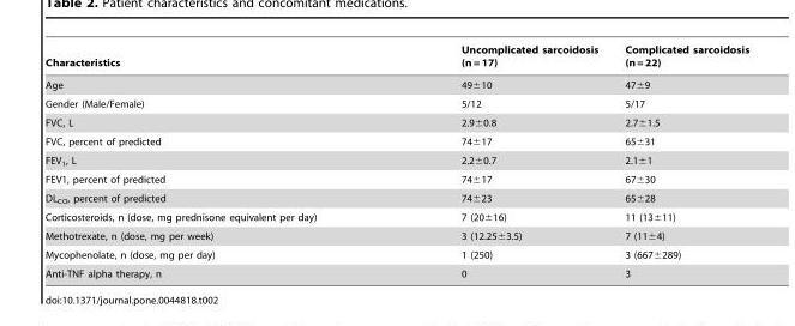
<table><thead><tr><td>Characteristics</td><td>Uncomplicated sarcoidosis (n = 17)</td><td>Complicated sarcoidosis (n = 22)</td></tr></thead><tbody><tr><td>Age</td><td>49±10</td><td>47±9</td></tr><tr><td>Gender (Male/Female)</td><td>5/12</td><td>5/17</td></tr><tr><td>FVC, L</td><td>2.9±0.8</td><td>2.7±1.5</td></tr><tr><td>FVC, percent of predicted</td><td>74±17</td><td>65±31</td></tr><tr><td>FEV<sub>1</sub>, L</td><td>2.2±0.7</td><td>2.1±1</td></tr><tr><td>FEV1, percent of predicted</td><td>74±17</td><td>67±30</td></tr><tr><td>DL<sub>CO</sub>, percent of predicted</td><td>74±23</td><td>65±28</td></tr><tr><td>Corticosteroids, n (dose, mg prednisone equivalent per day)</td><td>7 (20±16)</td><td>11 (13±11)</td></tr><tr><td>Methotrexate, n (dose, mg per week)</td><td>3 (12.25±3.5)</td><td>7 (11±4)</td></tr><tr><td>Mycophenolate, n (dose, mg per day)</td><td>1 (250)</td><td>3 (667±289)</td></tr><tr><td>Anti-TNF alpha therapy, n</td><td>0</td><td>3</td></tr></tbody></table>